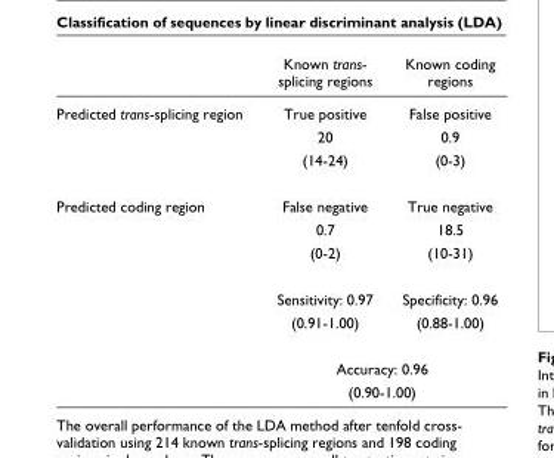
<table><thead><tr><td></td><td>Known trans- splicing regions</td><td>Known coding regions</td></tr></thead><tbody><tr><td rowspan="3">Predicted trans-splicing region</td><td>True positive</td><td>False positive</td></tr><tr><td>20</td><td>0.9</td></tr><tr><td>(14-24)</td><td>(0-3)</td></tr><tr><td rowspan="7">Predicted coding region</td><td>False negative</td><td>True negative</td></tr><tr><td>0.7</td><td>18.5</td></tr><tr><td>(0-2)</td><td>(10-31)</td></tr><tr><td>Sensitivity: 0.97</td><td>Specificity: 0.96</td></tr><tr><td>(0.91-1.00)</td><td>(0.88-1.00)</td></tr><tr><td colspan="2">Accuracy: 0.96</td></tr><tr><td colspan="2">(0.90-1.00)</td></tr></tbody></table>